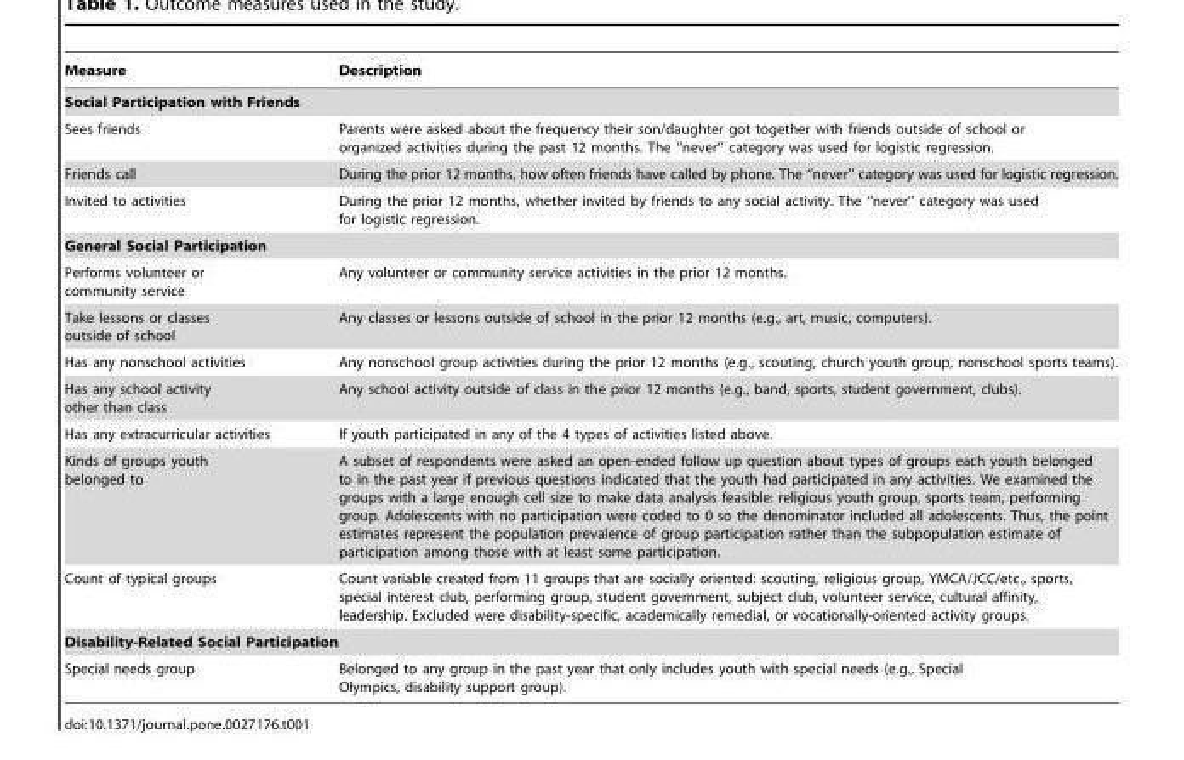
<table><thead><tr><td>Measure</td><td>Description</td></tr></thead><tbody><tr><td colspan="2">Social Participation with Friends</td></tr><tr><td>Sees friends</td><td>Parents were asked about the frequency their son/daughter got together with friends outside of school or organized activities during the past 12 months. The ‘‘never’’ category was used for logistic regression.</td></tr><tr><td>Friends call</td><td>During the prior 12 months, how often friends have called by phone. The ‘‘never’’ category was used for logistic regression.</td></tr><tr><td>Invited to activities</td><td>During the prior 12 months, whether invited by friends to any social activity. The ‘‘never’’ category was used for logistic regression.</td></tr><tr><td colspan="2">General Social Participation</td></tr><tr><td>Performs volunteer or community service</td><td>Any volunteer or community service activities in the prior 12 months.</td></tr><tr><td>Take lessons or classes outside of school</td><td>Any classes or lessons outside of school in the prior 12 months (e.g., art, music, computers).</td></tr><tr><td>Has any nonschool activities</td><td>Any nonschool group activities during the prior 12 months (e.g., scouting, church youth group, nonschool sports teams).</td></tr><tr><td>Has any school activity other than class</td><td>Any school activity outside of class in the prior 12 months (e.g., band, sports, student government, clubs).</td></tr><tr><td>Has any extracurricular activities</td><td>If youth participated in any of the 4 types of activities listed above.</td></tr><tr><td>Kinds of groups youth belonged to</td><td>A subset of respondents were asked an open-ended follow up question about types of groups each youth belonged to in the past year if previous questions indicated that the youth had participated in any activities. We examined the groups with a large enough cell size to make data analysis feasible: religious youth group, sports team, performing group. Adolescents with no participation were coded to 0 so the denominator included all adolescents. Thus, the point estimates represent the population prevalence of group participation rather than the subpopulation estimate of participation among those with at least some participation.</td></tr><tr><td>Count of typical groups</td><td>Count variable created from 11 groups that are socially oriented: scouting, religious group, YMCA/JCC/etc., sports, special interest club, performing group, student government, subject club, volunteer service, cultural affinity, leadership. Excluded were disability-specific, academically remedial, or vocationally-oriented activity groups.</td></tr><tr><td colspan="2">Disability-Related Social Participation</td></tr><tr><td>Special needs group</td><td>Belonged to any group in the past year that only includes youth with special needs (e.g., Special Olympics, disability support group).</td></tr></tbody></table>